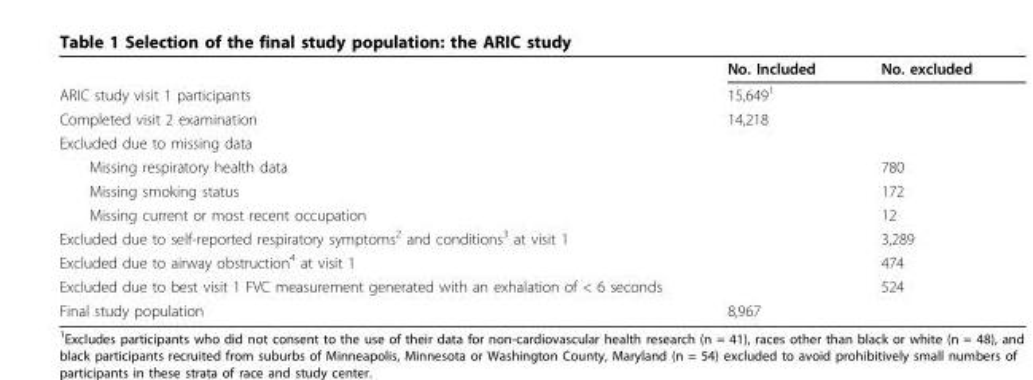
<table><thead><tr><td></td><td>No. Included</td><td>No. excluded</td></tr></thead><tbody><tr><td>ARIC study visit 1 participants</td><td>15,649<sup>1</sup></td><td></td></tr><tr><td>Completed visit 2 examination</td><td>14,218</td><td></td></tr><tr><td colspan="3">Excluded due to missing data</td></tr><tr><td>Missing respiratory health data</td><td></td><td>780</td></tr><tr><td>Missing smoking status</td><td></td><td>172</td></tr><tr><td>Missing current or most recent occupation</td><td></td><td>12</td></tr><tr><td>Excluded due to self-reported respiratory symptoms<sup>2</sup> and conditions<sup>3</sup> at visit 1</td><td></td><td>3,289</td></tr><tr><td>Excluded due to airway obstruction<sup>4</sup> at visit 1</td><td></td><td>474</td></tr><tr><td>Excluded due to best visit 1 FVC measurement generated with an exhalation of &lt; 6 seconds</td><td></td><td>524</td></tr><tr><td>Final study population</td><td>8,967</td><td></td></tr></tbody></table>